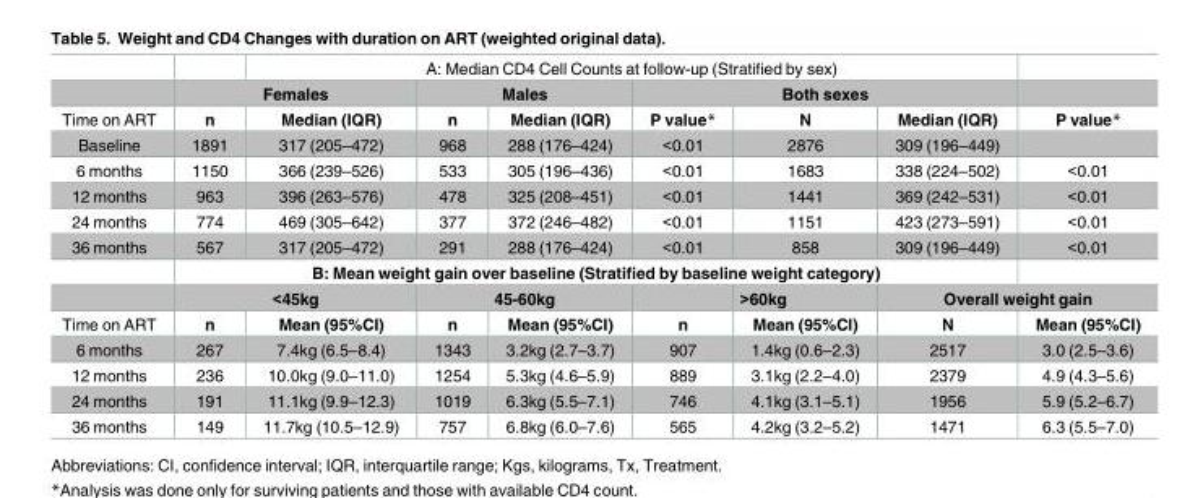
<table><thead><tr><td rowspan="3">Time on ART</td><td></td><td colspan="6">A: Median CD4 Cell Counts at follow-up (Stratified by sex)</td><td rowspan="3">P value*</td></tr><tr><td colspan="2">Females</td><td colspan="2">Males</td><td colspan="3">Both sexes</td></tr><tr><td>n</td><td>Median (IQR)</td><td>n</td><td>Median (IQR)</td><td>P value*</td><td>N</td><td>Median (IQR)</td></tr></thead><tbody><tr><td>Baseline</td><td>1891</td><td>317 (205–472)</td><td>968</td><td>288 (176–424)</td><td>&lt;0.01</td><td>2876</td><td>309 (196–449)</td><td></td></tr><tr><td>6 months</td><td>1150</td><td>366 (239–526)</td><td>533</td><td>305 (196–436)</td><td>&lt;0.01</td><td>1683</td><td>338 (224–502)</td><td>&lt;0.01</td></tr><tr><td>12 months</td><td>963</td><td>396 (263–576)</td><td>478</td><td>325 (208–451)</td><td>&lt;0.01</td><td>1441</td><td>369 (242–531)</td><td>&lt;0.01</td></tr><tr><td>24 months</td><td>774</td><td>469 (305–642)</td><td>377</td><td>372 (246–482)</td><td>&lt;0.01</td><td>1151</td><td>423 (273–591)</td><td>&lt;0.01</td></tr><tr><td rowspan="3">36 months</td><td>567</td><td>317 (205–472)</td><td>291</td><td>288 (176–424)</td><td>&lt;0.01</td><td>858</td><td>309 (196–449)</td><td>&lt;0.01</td></tr><tr><td colspan="7">B: Mean weight gain over baseline (Stratified by baseline weight category)</td><td></td></tr><tr><td colspan="2">&lt;45kg</td><td colspan="2">45-60kg</td><td></td><td>&gt;60kg</td><td colspan="2">Overall weight gain</td></tr><tr><td>Time on ART</td><td>n</td><td>Mean (95%CI)</td><td>n</td><td>Mean (95%CI)</td><td>n</td><td>Mean (95%CI)</td><td>N</td><td>Mean (95%CI)</td></tr><tr><td>6 months</td><td>267</td><td>7.4kg (6.5–8.4)</td><td>1343</td><td>3.2kg (2.7–3.7)</td><td>907</td><td>1.4kg (0.6–2.3)</td><td>2517</td><td>3.0 (2.5–3.6)</td></tr><tr><td>12 months</td><td>236</td><td>10.0kg (9.0–11.0)</td><td>1254</td><td>5.3kg (4.6–5.9)</td><td>889</td><td>3.1kg (2.2–4.0)</td><td>2379</td><td>4.9 (4.3–5.6)</td></tr><tr><td>24 months</td><td>191</td><td>11.1kg (9.9–12.3)</td><td>1019</td><td>6.3kg (5.5–7.1)</td><td>746</td><td>4.1kg (3.1–5.1)</td><td>1956</td><td>5.9 (5.2–6.7)</td></tr><tr><td>36 months</td><td>149</td><td>11.7kg (10.5–12.9)</td><td>757</td><td>6.8kg (6.0–7.6)</td><td>565</td><td>4.2kg (3.2–5.2)</td><td>1471</td><td>6.3 (5.5–7.0)</td></tr></tbody></table>